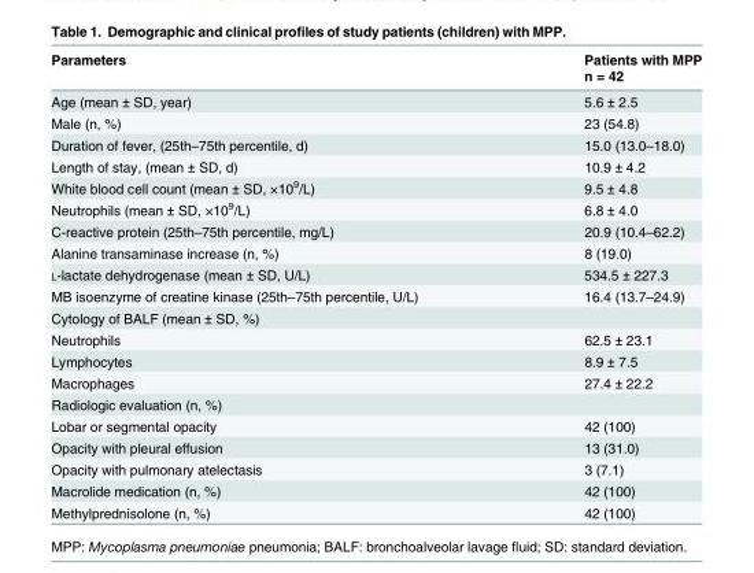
<table><thead><tr><td rowspan="2">Parameters</td><td rowspan="2">Patients with MPP n = 42</td></tr><tr></tr></thead><tbody><tr><td>Age (mean ± SD, year)</td><td>5.6 ± 2.5</td></tr><tr><td>Male (n, %)</td><td>23 (54.8)</td></tr><tr><td>Duration of fever, (25th–75th percentile, d)</td><td>15.0 (13.0–18.0)</td></tr><tr><td>Length of stay, (mean ± SD, d)</td><td>10.9 ± 4.2</td></tr><tr><td>White blood cell count (mean ± SD, ×10<sup>9</sup>/L)</td><td>9.5 ± 4.8</td></tr><tr><td>Neutrophils (mean ± SD, ×10<sup>9</sup>/L)</td><td>6.8 ± 4.0</td></tr><tr><td>C-reactive protein (25th–75th percentile, mg/L)</td><td>20.9 (10.4–62.2)</td></tr><tr><td>Alanine transaminase increase (n, %)</td><td>8 (19.0)</td></tr><tr><td>L-lactate dehydrogenase (mean ± SD, U/L)</td><td>534.5 ± 227.3</td></tr><tr><td>MB isoenzyme of creatine kinase (25th–75th percentile, U/L)</td><td>16.4 (13.7–24.9)</td></tr><tr><td colspan="2">Cytology of BALF (mean ± SD, %)</td></tr><tr><td>Neutrophils</td><td>62.5 ± 23.1</td></tr><tr><td>Lymphocytes</td><td>8.9 ± 7.5</td></tr><tr><td>Macrophages</td><td>27.4 ± 22.2</td></tr><tr><td colspan="2">Radiologic evaluation (n, %)</td></tr><tr><td>Lobar or segmental opacity</td><td>42 (100)</td></tr><tr><td>Opacity with pleural effusion</td><td>13 (31.0)</td></tr><tr><td>Opacity with pulmonary atelectasis</td><td>3 (7.1)</td></tr><tr><td>Macrolide medication (n, %)</td><td>42 (100)</td></tr><tr><td>Methylprednisolone (n, %)</td><td>42 (100)</td></tr></tbody></table>